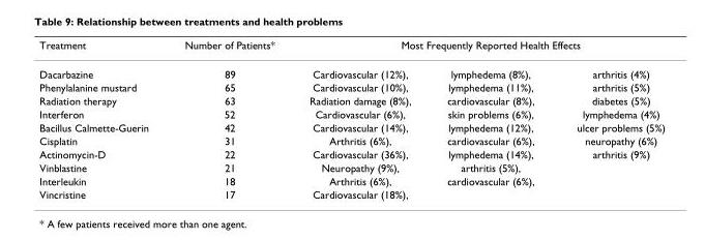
<table><thead><tr><td rowspan="2">Treatment Dacarbazine</td><td rowspan="2">Number of Patients* 89</td><td colspan="3">Most Frequently Reported Health Effects</td></tr><tr><td>Cardiovascular (12%),</td><td>lymphedema (8%),</td><td>arthritis (4%)</td></tr></thead><tbody><tr><td>Phenylalanine mustard</td><td>65</td><td>Cardiovascular (10%),</td><td>lymphedema (11%),</td><td>arthritis (5%)</td></tr><tr><td>Radiation therapy</td><td>63</td><td>Radiation damage (8%),</td><td>cardiovascular (8%),</td><td>diabetes (5%)</td></tr><tr><td>Interferon</td><td>52</td><td>Cardiovascular (6%),</td><td>skin problems (6%),</td><td>lymphedema (4%)</td></tr><tr><td>Bacillus Calmette-Guerin</td><td>42</td><td>Cardiovascular (14%),</td><td>lymphedema (12%),</td><td>ulcer problems (5%)</td></tr><tr><td>Cisplatin</td><td>31</td><td>Arthritis (6%),</td><td>cardiovascular (6%),</td><td>neuropathy (6%)</td></tr><tr><td>Actinomycin-D</td><td>22</td><td>Cardiovascular (36%),</td><td>lymphedema (14%),</td><td>arthritis (9%)</td></tr><tr><td>Vinblastine</td><td>21</td><td>Neuropathy (9%),</td><td>arthritis (5%),</td><td></td></tr><tr><td>Interleukin</td><td>18</td><td>Arthritis (6%),</td><td>cardiovascular (6%),</td><td></td></tr><tr><td>Vincristine</td><td>17</td><td>Cardiovascular (18%),</td><td></td><td></td></tr></tbody></table>